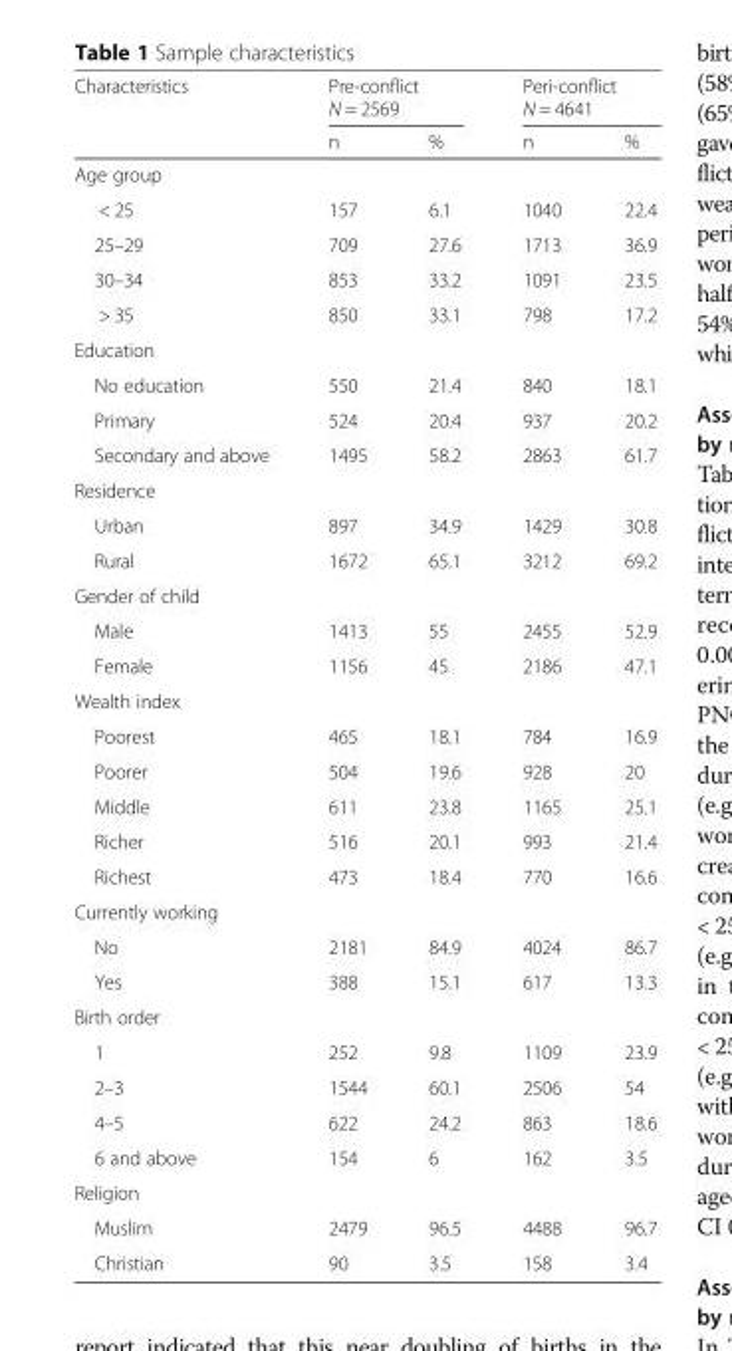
<table><thead><tr><td rowspan="2">Characteristics</td><td colspan="2">Pre-conflict N = 2569</td><td colspan="2">Peri-conflict N = 4641</td></tr><tr><td>n</td><td>%</td><td>n</td><td>%</td></tr></thead><tbody><tr><td colspan="5">Age group</td></tr><tr><td>&lt; 25</td><td>157</td><td>6.1</td><td>1040</td><td>22.4</td></tr><tr><td>25–29</td><td>709</td><td>27.6</td><td>1713</td><td>36.9</td></tr><tr><td>30–34</td><td>853</td><td>33.2</td><td>1091</td><td>23.5</td></tr><tr><td>&gt; 35</td><td>850</td><td>33.1</td><td>798</td><td>17.2</td></tr><tr><td colspan="5">Education</td></tr><tr><td>No education</td><td>550</td><td>21.4</td><td>840</td><td>18.1</td></tr><tr><td>Primary</td><td>524</td><td>20.4</td><td>937</td><td>20.2</td></tr><tr><td>Secondary and above</td><td>1495</td><td>58.2</td><td>2863</td><td>61.7</td></tr><tr><td colspan="5">Residence</td></tr><tr><td>Urban</td><td>897</td><td>34.9</td><td>1429</td><td>30.8</td></tr><tr><td>Rural</td><td>1672</td><td>65.1</td><td>3212</td><td>69.2</td></tr><tr><td colspan="5">Gender of child</td></tr><tr><td>Male</td><td>1413</td><td>55</td><td>2455</td><td>52.9</td></tr><tr><td>Female</td><td>1156</td><td>45</td><td>2186</td><td>47.1</td></tr><tr><td colspan="5">Wealth index</td></tr><tr><td>Poorest</td><td>465</td><td>18.1</td><td>784</td><td>16.9</td></tr><tr><td>Poorer</td><td>504</td><td>19.6</td><td>928</td><td>20</td></tr><tr><td>Middle</td><td>611</td><td>23.8</td><td>1165</td><td>25.1</td></tr><tr><td>Richer</td><td>516</td><td>20.1</td><td>993</td><td>21.4</td></tr><tr><td>Richest</td><td>473</td><td>18.4</td><td>770</td><td>16.6</td></tr><tr><td colspan="5">Currently working</td></tr><tr><td>No</td><td>2181</td><td>84.9</td><td>4024</td><td>86.7</td></tr><tr><td>Yes</td><td>388</td><td>15.1</td><td>617</td><td>13.3</td></tr><tr><td colspan="5">Birth order</td></tr><tr><td>1</td><td>252</td><td>9.8</td><td>1109</td><td>23.9</td></tr><tr><td>2–3</td><td>1544</td><td>60.1</td><td>2506</td><td>54</td></tr><tr><td>4–5</td><td>622</td><td>24.2</td><td>863</td><td>18.6</td></tr><tr><td>6 and above</td><td>154</td><td>6</td><td>162</td><td>3.5</td></tr><tr><td colspan="5">Religion</td></tr><tr><td>Muslim</td><td>2479</td><td>96.5</td><td>4488</td><td>96.7</td></tr><tr><td>Christian</td><td>90</td><td>3.5</td><td>158</td><td>3.4</td></tr></tbody></table>